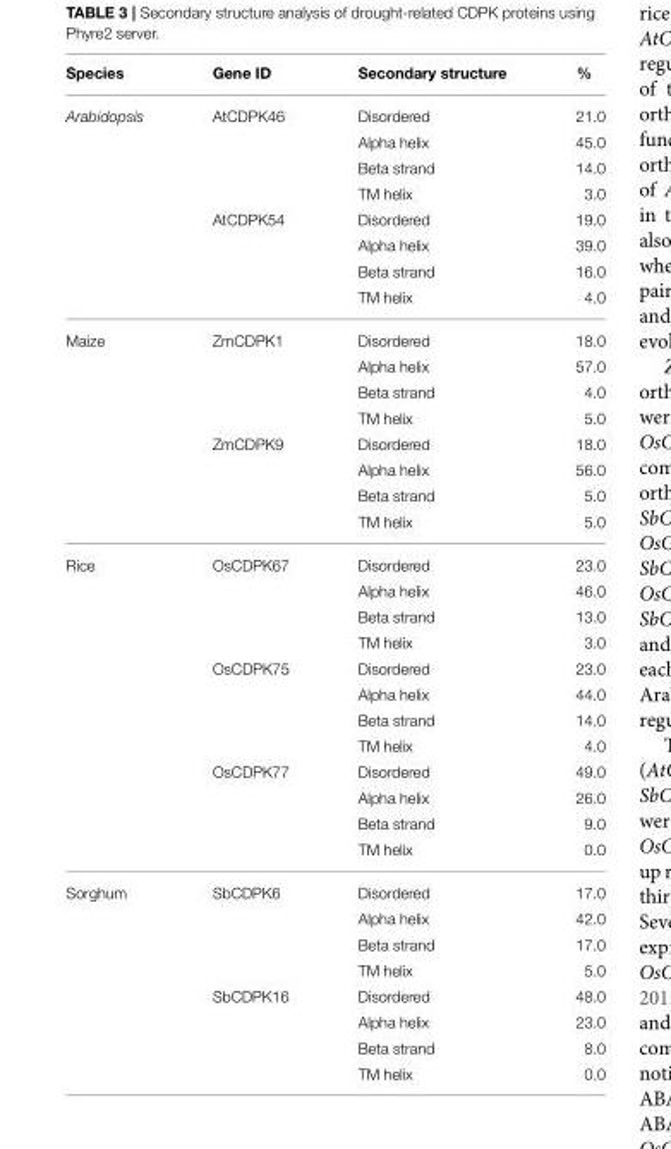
<table><thead><tr><td>Species</td><td>Gene ID</td><td>Secondary structure</td><td>%</td></tr></thead><tbody><tr><td rowspan="8">Arabidopsis</td><td>AtCDPK46</td><td>Disordered</td><td>21.0</td></tr><tr><td></td><td>Alpha helix</td><td>45.0</td></tr><tr><td></td><td>Beta strand</td><td>14.0</td></tr><tr><td></td><td>TM helix</td><td>3.0</td></tr><tr><td>AtCDPK54</td><td>Disordered</td><td>19.0</td></tr><tr><td></td><td>Alpha helix</td><td>39.0</td></tr><tr><td></td><td>Beta strand</td><td>16.0</td></tr><tr><td></td><td>TM helix</td><td>4.0</td></tr><tr><td rowspan="8">Maize</td><td>ZmCDPK1</td><td>Disordered</td><td>18.0</td></tr><tr><td></td><td>Alpha helix</td><td>57.0</td></tr><tr><td></td><td>Beta strand</td><td>4.0</td></tr><tr><td></td><td>TM helix</td><td>5.0</td></tr><tr><td>ZmCDPK9</td><td>Disordered</td><td>18.0</td></tr><tr><td></td><td>Alpha helix</td><td>56.0</td></tr><tr><td></td><td>Beta strand</td><td>5.0</td></tr><tr><td></td><td>TM helix</td><td>5.0</td></tr><tr><td rowspan="12">Rice</td><td>OsCDPK67</td><td>Disordered</td><td>23.0</td></tr><tr><td></td><td>Alpha helix</td><td>46.0</td></tr><tr><td></td><td>Beta strand</td><td>13.0</td></tr><tr><td></td><td>TM helix</td><td>3.0</td></tr><tr><td>OsCDPK75</td><td>Disordered</td><td>23.0</td></tr><tr><td></td><td>Alpha helix</td><td>44.0</td></tr><tr><td></td><td>Beta strand</td><td>14.0</td></tr><tr><td></td><td>TM helix</td><td>4.0</td></tr><tr><td>OsCDPK77</td><td>Disordered</td><td>49.0</td></tr><tr><td></td><td>Alpha helix</td><td>26.0</td></tr><tr><td></td><td>Beta strand</td><td>9.0</td></tr><tr><td></td><td>TM helix</td><td>0.0</td></tr><tr><td rowspan="8">Sorghum</td><td>SbCDPK6</td><td>Disordered</td><td>17.0</td></tr><tr><td></td><td>Alpha helix</td><td>42.0</td></tr><tr><td></td><td>Beta strand</td><td>17.0</td></tr><tr><td></td><td>TM helix</td><td>5.0</td></tr><tr><td>SbCDPK16</td><td>Disordered</td><td>48.0</td></tr><tr><td></td><td>Alpha helix</td><td>23.0</td></tr><tr><td></td><td>Beta strand</td><td>8.0</td></tr><tr><td></td><td>TM helix</td><td>0.0</td></tr></tbody></table>